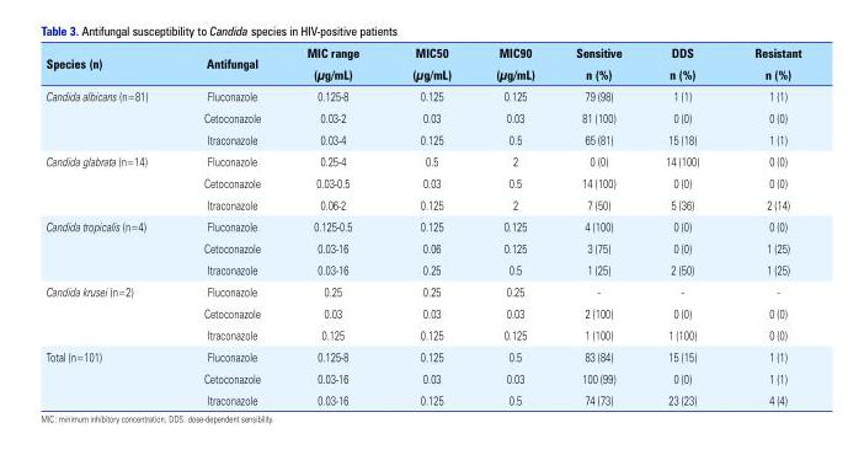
<table><thead><tr><td rowspan="2">Species (n)</td><td rowspan="2">Antifungal</td><td rowspan="2">MIC range (µg/mL)</td><td rowspan="2">MIC50 (µg/mL)</td><td rowspan="2">MIC90 (µg/mL)</td><td rowspan="2">Sensitive n (%)</td><td rowspan="2">DDS n (%)</td><td rowspan="2">Resistant n (%)</td></tr><tr></tr></thead><tbody><tr><td rowspan="3">Candida albicans (n=81)</td><td>Fluconazole</td><td>0.125-8</td><td>0.125</td><td>0.125</td><td>79 (98)</td><td>1 (1)</td><td>1 (1)</td></tr><tr><td>Cetoconazole</td><td>0.03-2</td><td>0.03</td><td>0.03</td><td>81 (100)</td><td>0 (0)</td><td>0 (0)</td></tr><tr><td>Itraconazole</td><td>0.03-4</td><td>0.125</td><td>0.5</td><td>65 (81)</td><td>15 (18)</td><td>1 (1)</td></tr><tr><td rowspan="3">Candida glabrata (n=14)</td><td>Fluconazole</td><td>0.25-4</td><td>0.5</td><td>2</td><td>0 (0)</td><td>14 (100)</td><td>0 (0)</td></tr><tr><td>Cetoconazole</td><td>0.03-0.5</td><td>0.03</td><td>0.5</td><td>14 (100)</td><td>0 (0)</td><td>0 (0)</td></tr><tr><td>Itraconazole</td><td>0.06-2</td><td>0.125</td><td>2</td><td>7 (50)</td><td>5 (36)</td><td>2 (14)</td></tr><tr><td rowspan="3">Candida tropicalis (n=4)</td><td>Fluconazole</td><td>0.125-0.5</td><td>0.125</td><td>0.125</td><td>4 (100)</td><td>0 (0)</td><td>0 (0)</td></tr><tr><td>Cetoconazole</td><td>0.03-16</td><td>0.06</td><td>0.125</td><td>3 (75)</td><td>0 (0)</td><td>1 (25)</td></tr><tr><td>Itraconazole</td><td>0.03-16</td><td>0.25</td><td>0.5</td><td>1 (25)</td><td>2 (50)</td><td>1 (25)</td></tr><tr><td rowspan="3">Candida krusei (n=2)</td><td>Fluconazole</td><td>0.25</td><td>0.25</td><td>0.25</td><td>-</td><td>-</td><td>-</td></tr><tr><td>Cetoconazole</td><td>0.03</td><td>0.03</td><td>0.03</td><td>2 (100)</td><td>0 (0)</td><td>0 (0)</td></tr><tr><td>Itraconazole</td><td>0.125</td><td>0.125</td><td>0.125</td><td>1 (100)</td><td>1 (100)</td><td>0 (0)</td></tr><tr><td rowspan="3">Total (n=101)</td><td>Fluconazole</td><td>0.125-8</td><td>0.125</td><td>0.5</td><td>83 (84)</td><td>15 (15)</td><td>1 (1)</td></tr><tr><td>Cetoconazole</td><td>0.03-16</td><td>0.03</td><td>0.03</td><td>100 (99)</td><td>0 (0)</td><td>1 (1)</td></tr><tr><td>Itraconazole</td><td>0.03-16</td><td>0.125</td><td>0.5</td><td>74 (73)</td><td>23 (23)</td><td>4 (4)</td></tr></tbody></table>